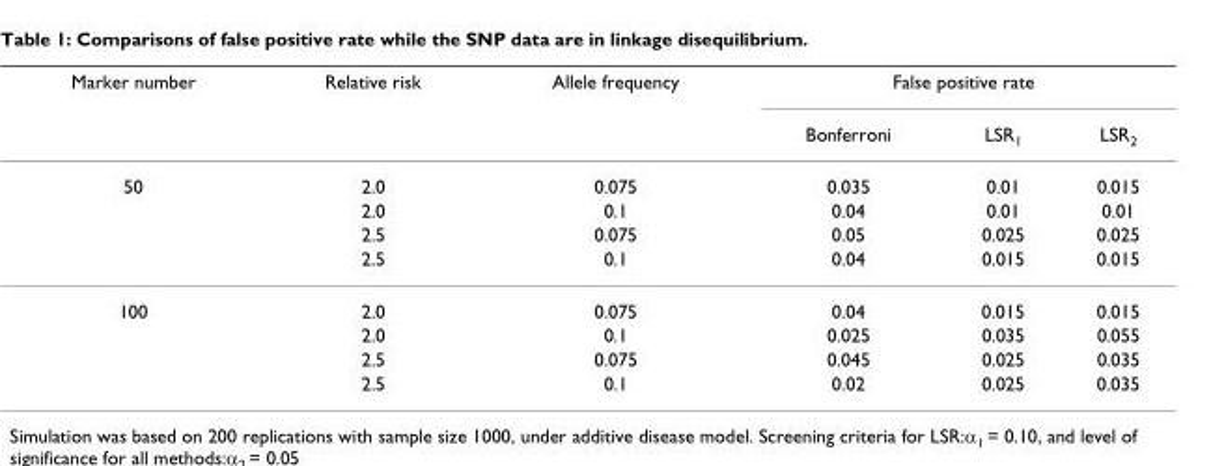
<table><thead><tr><td rowspan="2">Marker number</td><td rowspan="2">Relative risk</td><td rowspan="2">Allele frequency</td><td colspan="3">False positive rate</td></tr><tr><td>Bonferroni</td><td>LSR<sub>1</sub></td><td>LSR<sub>2</sub></td></tr></thead><tbody><tr><td rowspan="4">50</td><td>2.0</td><td>0.075</td><td>0.035</td><td>0.01</td><td>0.015</td></tr><tr><td>2.0</td><td>0.1</td><td>0.04</td><td>0.01</td><td>0.01</td></tr><tr><td>2.5</td><td>0.075</td><td>0.05</td><td>0.025</td><td>0.025</td></tr><tr><td>2.5</td><td>0.1</td><td>0.04</td><td>0.015</td><td>0.015</td></tr><tr><td rowspan="4">100</td><td>2.0</td><td>0.075</td><td>0.04</td><td>0.015</td><td>0.015</td></tr><tr><td>2.0</td><td>0.1</td><td>0.025</td><td>0.035</td><td>0.055</td></tr><tr><td>2.5</td><td>0.075</td><td>0.045</td><td>0.025</td><td>0.035</td></tr><tr><td>2.5</td><td>0.1</td><td>0.02</td><td>0.025</td><td>0.035</td></tr></tbody></table>